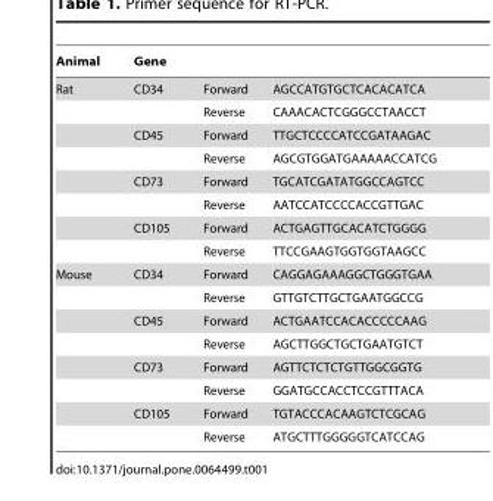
<table><thead><tr><td>Animal</td><td>Gene</td><td></td><td></td></tr></thead><tbody><tr><td rowspan="8">Rat</td><td>CD34</td><td>Forward</td><td>AGCCATGTGCTCACACATCA</td></tr><tr><td></td><td>Reverse</td><td>CAAACACTCGGGCCTAACCT</td></tr><tr><td>CD45</td><td>Forward</td><td>TTGCTCCCCATCCGATAAGAC</td></tr><tr><td></td><td>Reverse</td><td>AGCGTGGATGAAAAACCATCG</td></tr><tr><td>CD73</td><td>Forward</td><td>TGCATCGATATGGCCAGTCC</td></tr><tr><td></td><td>Reverse</td><td>AATCCATCCCCACCGTTGAC</td></tr><tr><td>CD105</td><td>Forward</td><td>ACTGAGTTGCACATCTGGGG</td></tr><tr><td></td><td>Reverse</td><td>TTCCGAAGTGGTGGTAAGCC</td></tr><tr><td rowspan="8">Mouse</td><td>CD34</td><td>Forward</td><td>CAGGAGAAAGGCTGGGTGAA</td></tr><tr><td></td><td>Reverse</td><td>GTTGTCTTGCTGAATGGCCG</td></tr><tr><td>CD45</td><td>Forward</td><td>ACTGAATCCACACCCCCAAG</td></tr><tr><td></td><td>Reverse</td><td>AGCTTGGCTGCTGAATGTCT</td></tr><tr><td>CD73</td><td>Forward</td><td>AGTTCTCTCTGTTGGCGGTG</td></tr><tr><td></td><td>Reverse</td><td>GGATGCCACCTCCGTTTACA</td></tr><tr><td>CD105</td><td>Forward</td><td>TGTACCCACAAGTCTCGCAG</td></tr><tr><td></td><td>Reverse</td><td>ATGCTTTGGGGGTCATCCAG</td></tr></tbody></table>